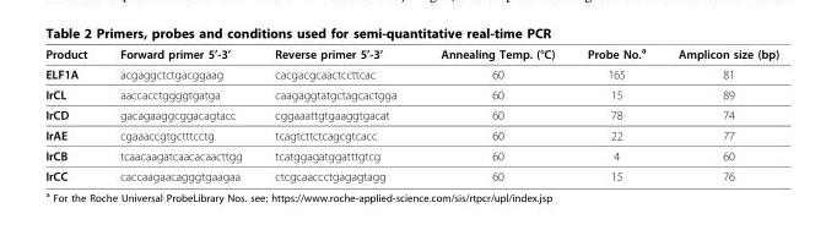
<table><thead><tr><td>Product</td><td>Forward primer 5’-3’</td><td>Reverse primer 5’-3’</td><td>Annealing Temp. (°C)</td><td>Probe No.<sup>a</sup></td><td>Amplicon size (bp)</td></tr></thead><tbody><tr><td>ELF1A</td><td>acgaggctctgacggaag</td><td>cacgacgcaactccttcac</td><td>60</td><td>165</td><td>81</td></tr><tr><td>IrCL</td><td>aaccacctggggtgatga</td><td>caagaggtatgctagcactgga</td><td>60</td><td>15</td><td>89</td></tr><tr><td>IrCD</td><td>gacagaaggcggacagtacc</td><td>cggaaattgtgaaggtgacat</td><td>60</td><td>78</td><td>74</td></tr><tr><td>IrAE</td><td>cgaaaccgtgctttcctg</td><td>tcagtcttctcagcgtcacc</td><td>60</td><td>22</td><td>77</td></tr><tr><td>IrCB</td><td>tcaacaagatcaacacaacttgg</td><td>tcatggagatggatttgtcg</td><td>60</td><td>4</td><td>60</td></tr><tr><td>IrCC</td><td>caccaagaacagggtgaagaa</td><td>ctcgcaaccctgagagtagg</td><td>60</td><td>15</td><td>76</td></tr></tbody></table>